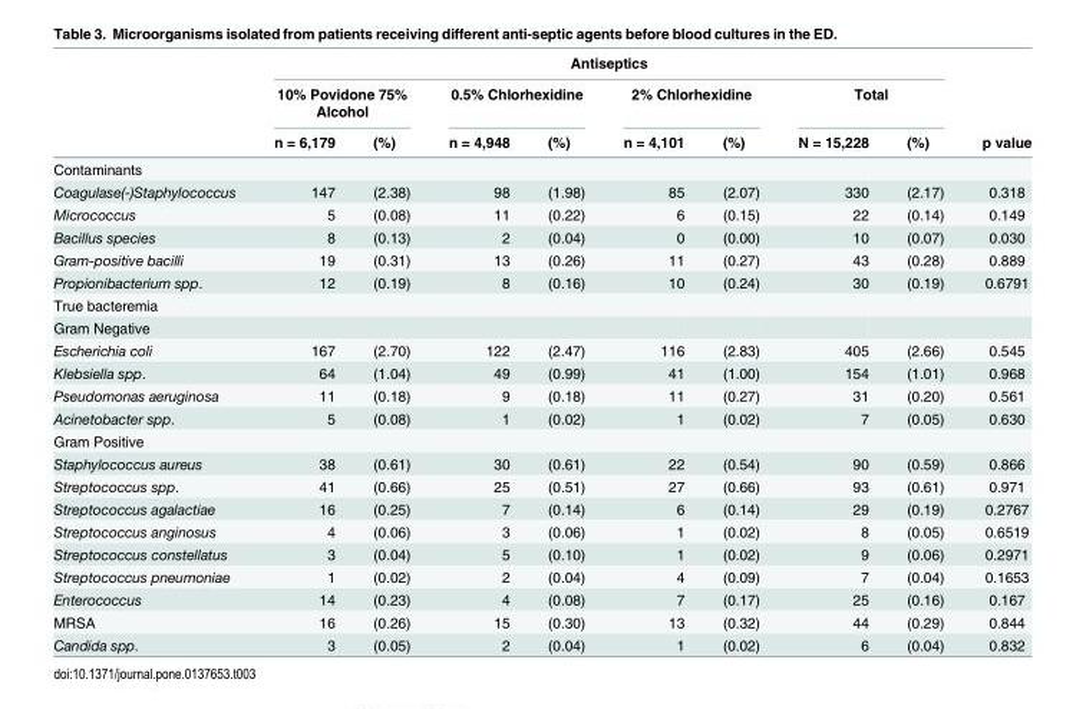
<table><thead><tr><td rowspan="3"></td><td colspan="8">Antiseptics</td><td rowspan="3">p value</td></tr><tr><td colspan="2">10% Povidone 75% Alcohol</td><td colspan="2">0.5% Chlorhexidine</td><td colspan="2">2% Chlorhexidine</td><td colspan="2">Total</td></tr><tr><td>n = 6,179</td><td>(%)</td><td>n = 4,948</td><td>(%)</td><td>n = 4,101</td><td>(%)</td><td>N = 15,228</td><td>(%)</td></tr></thead><tbody><tr><td colspan="10">Contaminants</td></tr><tr><td>Coagulase(-)Staphylococcus</td><td>147</td><td>(2.38)</td><td>98</td><td>(1.98)</td><td>85</td><td>(2.07)</td><td>330</td><td>(2.17)</td><td>0.318</td></tr><tr><td>Micrococcus</td><td>5</td><td>(0.08)</td><td>11</td><td>(0.22)</td><td>6</td><td>(0.15)</td><td>22</td><td>(0.14)</td><td>0.149</td></tr><tr><td>Bacillus species</td><td>8</td><td>(0.13)</td><td>2</td><td>(0.04)</td><td>0</td><td>(0.00)</td><td>10</td><td>(0.07)</td><td>0.030</td></tr><tr><td>Gram-positive bacilli</td><td>19</td><td>(0.31)</td><td>13</td><td>(0.26)</td><td>11</td><td>(0.27)</td><td>43</td><td>(0.28)</td><td>0.889</td></tr><tr><td>Propionibacterium spp.</td><td>12</td><td>(0.19)</td><td>8</td><td>(0.16)</td><td>10</td><td>(0.24)</td><td>30</td><td>(0.19)</td><td>0.6791</td></tr><tr><td colspan="10">True bacteremia</td></tr><tr><td colspan="10">Gram Negative</td></tr><tr><td>Escherichia coli</td><td>167</td><td>(2.70)</td><td>122</td><td>(2.47)</td><td>116</td><td>(2.83)</td><td>405</td><td>(2.66)</td><td>0.545</td></tr><tr><td>Klebsiella spp.</td><td>64</td><td>(1.04)</td><td>49</td><td>(0.99)</td><td>41</td><td>(1.00)</td><td>154</td><td>(1.01)</td><td>0.968</td></tr><tr><td>Pseudomonas aeruginosa</td><td>11</td><td>(0.18)</td><td>9</td><td>(0.18)</td><td>11</td><td>(0.27)</td><td>31</td><td>(0.20)</td><td>0.561</td></tr><tr><td>Acinetobacter spp.</td><td>5</td><td>(0.08)</td><td>1</td><td>(0.02)</td><td>1</td><td>(0.02)</td><td>7</td><td>(0.05)</td><td>0.630</td></tr><tr><td colspan="10">Gram Positive</td></tr><tr><td>Staphylococcus aureus</td><td>38</td><td>(0.61)</td><td>30</td><td>(0.61)</td><td>22</td><td>(0.54)</td><td>90</td><td>(0.59)</td><td>0.866</td></tr><tr><td>Streptococcus spp.</td><td>41</td><td>(0.66)</td><td>25</td><td>(0.51)</td><td>27</td><td>(0.66)</td><td>93</td><td>(0.61)</td><td>0.971</td></tr><tr><td>Streptococcus agalactiae</td><td>16</td><td>(0.25)</td><td>7</td><td>(0.14)</td><td>6</td><td>(0.14)</td><td>29</td><td>(0.19)</td><td>0.2767</td></tr><tr><td>Streptococcus anginosus</td><td>4</td><td>(0.06)</td><td>3</td><td>(0.06)</td><td>1</td><td>(0.02)</td><td>8</td><td>(0.05)</td><td>0.6519</td></tr><tr><td>Streptococcus constellatus</td><td>3</td><td>(0.04)</td><td>5</td><td>(0.10)</td><td>1</td><td>(0.02)</td><td>9</td><td>(0.06)</td><td>0.2971</td></tr><tr><td>Streptococcus pneumoniae</td><td>1</td><td>(0.02)</td><td>2</td><td>(0.04)</td><td>4</td><td>(0.09)</td><td>7</td><td>(0.04)</td><td>0.1653</td></tr><tr><td>Enterococcus</td><td>14</td><td>(0.23)</td><td>4</td><td>(0.08)</td><td>7</td><td>(0.17)</td><td>25</td><td>(0.16)</td><td>0.167</td></tr><tr><td>MRSA</td><td>16</td><td>(0.26)</td><td>15</td><td>(0.30)</td><td>13</td><td>(0.32)</td><td>44</td><td>(0.29)</td><td>0.844</td></tr><tr><td>Candida spp.</td><td>3</td><td>(0.05)</td><td>2</td><td>(0.04)</td><td>1</td><td>(0.02)</td><td>6</td><td>(0.04)</td><td>0.832</td></tr></tbody></table>